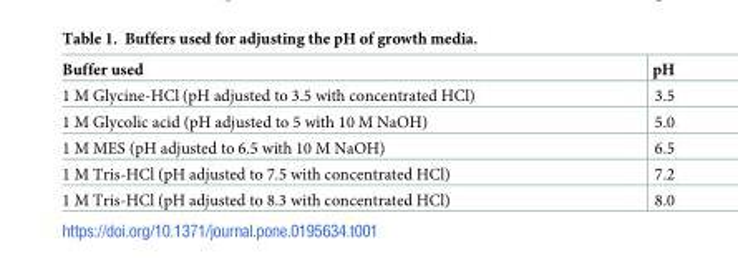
<table><thead><tr><td>Buffer used</td><td>pH</td></tr></thead><tbody><tr><td>1 M Glycine-HCl (pH adjusted to 3.5 with concentrated HCl)</td><td>3.5</td></tr><tr><td>1 M Glycolic acid (pH adjusted to 5 with 10 M NaOH)</td><td>5.0</td></tr><tr><td>1 M MES (pH adjusted to 6.5 with 10 M NaOH)</td><td>6.5</td></tr><tr><td>1 M Tris-HCl (pH adjusted to 7.5 with concentrated HCl)</td><td>7.2</td></tr><tr><td>1 M Tris-HCl (pH adjusted to 8.3 with concentrated HCl)</td><td>8.0</td></tr></tbody></table>